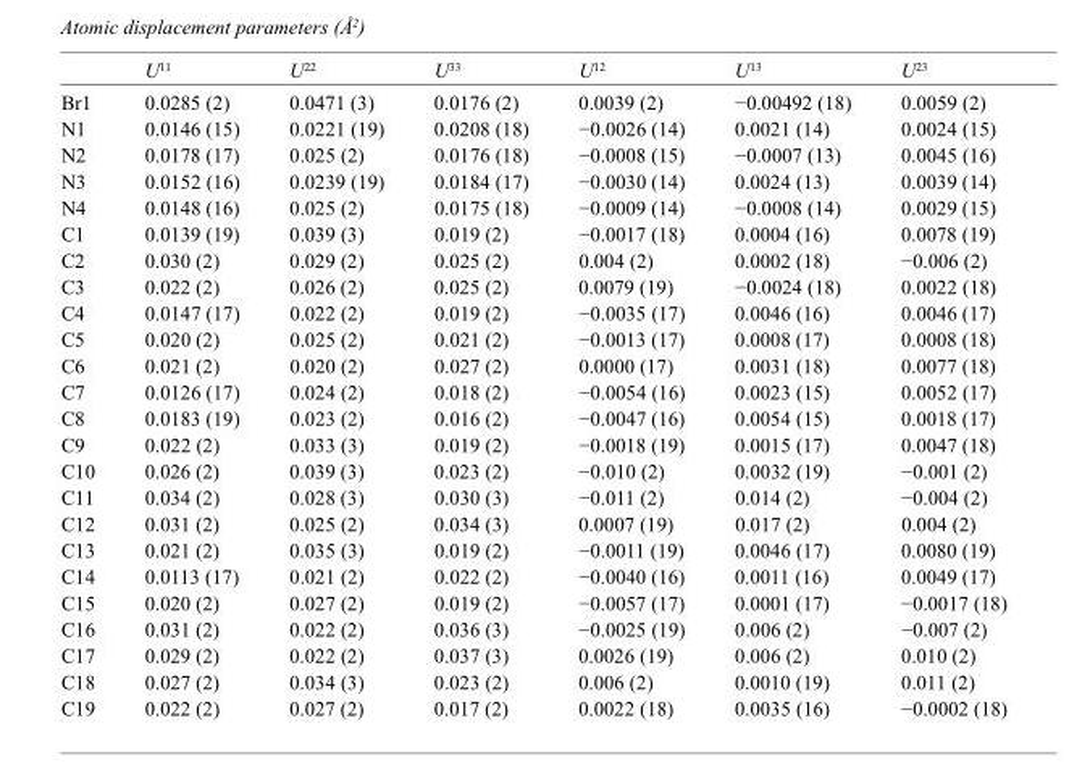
<table><thead><tr><td></td><td>U<sup>11</sup></td><td>U<sup>22</sup></td><td>U<sup>33</sup></td><td>U<sup>12</sup></td><td>U<sup>13</sup></td><td>U<sup>23</sup></td></tr></thead><tbody><tr><td>Br1</td><td>0.0285 (2)</td><td>0.0471 (3)</td><td>0.0176 (2)</td><td>0.0039 (2)</td><td>−0.00492 (18)</td><td>0.0059 (2)</td></tr><tr><td>N1</td><td>0.0146 (15)</td><td>0.0221 (19)</td><td>0.0208 (18)</td><td>−0.0026 (14)</td><td>0.0021 (14)</td><td>0.0024 (15)</td></tr><tr><td>N2</td><td>0.0178 (17)</td><td>0.025 (2)</td><td>0.0176 (18)</td><td>−0.0008 (15)</td><td>−0.0007 (13)</td><td>0.0045 (16)</td></tr><tr><td>N3</td><td>0.0152 (16)</td><td>0.0239 (19)</td><td>0.0184 (17)</td><td>−0.0030 (14)</td><td>0.0024 (13)</td><td>0.0039 (14)</td></tr><tr><td>N4</td><td>0.0148 (16)</td><td>0.025 (2)</td><td>0.0175 (18)</td><td>−0.0009 (14)</td><td>−0.0008 (14)</td><td>0.0029 (15)</td></tr><tr><td>C1</td><td>0.0139 (19)</td><td>0.039 (3)</td><td>0.019 (2)</td><td>−0.0017 (18)</td><td>0.0004 (16)</td><td>0.0078 (19)</td></tr><tr><td>C2</td><td>0.030 (2)</td><td>0.029 (2)</td><td>0.025 (2)</td><td>0.004 (2)</td><td>0.0002 (18)</td><td>−0.006 (2)</td></tr><tr><td>C3</td><td>0.022 (2)</td><td>0.026 (2)</td><td>0.025 (2)</td><td>0.0079 (19)</td><td>−0.0024 (18)</td><td>0.0022 (18)</td></tr><tr><td>C4</td><td>0.0147 (17)</td><td>0.022 (2)</td><td>0.019 (2)</td><td>−0.0035 (17)</td><td>0.0046 (16)</td><td>0.0046 (17)</td></tr><tr><td>C5</td><td>0.020 (2)</td><td>0.025 (2)</td><td>0.021 (2)</td><td>−0.0013 (17)</td><td>0.0008 (17)</td><td>0.0008 (18)</td></tr><tr><td>C6</td><td>0.021 (2)</td><td>0.020 (2)</td><td>0.027 (2)</td><td>0.0000 (17)</td><td>0.0031 (18)</td><td>0.0077 (18)</td></tr><tr><td>C7</td><td>0.0126 (17)</td><td>0.024 (2)</td><td>0.018 (2)</td><td>−0.0054 (16)</td><td>0.0023 (15)</td><td>0.0052 (17)</td></tr><tr><td>C8</td><td>0.0183 (19)</td><td>0.023 (2)</td><td>0.016 (2)</td><td>−0.0047 (16)</td><td>0.0054 (15)</td><td>0.0018 (17)</td></tr><tr><td>C9</td><td>0.022 (2)</td><td>0.033 (3)</td><td>0.019 (2)</td><td>−0.0018 (19)</td><td>0.0015 (17)</td><td>0.0047 (18)</td></tr><tr><td>C10</td><td>0.026 (2)</td><td>0.039 (3)</td><td>0.023 (2)</td><td>−0.010 (2)</td><td>0.0032 (19)</td><td>−0.001 (2)</td></tr><tr><td>C11</td><td>0.034 (2)</td><td>0.028 (3)</td><td>0.030 (3)</td><td>−0.011 (2)</td><td>0.014 (2)</td><td>−0.004 (2)</td></tr><tr><td>C12</td><td>0.031 (2)</td><td>0.025 (2)</td><td>0.034 (3)</td><td>0.0007 (19)</td><td>0.017 (2)</td><td>0.004 (2)</td></tr><tr><td>C13</td><td>0.021 (2)</td><td>0.035 (3)</td><td>0.019 (2)</td><td>−0.0011 (19)</td><td>0.0046 (17)</td><td>0.0080 (19)</td></tr><tr><td>C14</td><td>0.0113 (17)</td><td>0.021 (2)</td><td>0.022 (2)</td><td>−0.0040 (16)</td><td>0.0011 (16)</td><td>0.0049 (17)</td></tr><tr><td>C15</td><td>0.020 (2)</td><td>0.027 (2)</td><td>0.019 (2)</td><td>−0.0057 (17)</td><td>0.0001 (17)</td><td>−0.0017 (18)</td></tr><tr><td>C16</td><td>0.031 (2)</td><td>0.022 (2)</td><td>0.036 (3)</td><td>−0.0025 (19)</td><td>0.006 (2)</td><td>−0.007 (2)</td></tr><tr><td>C17</td><td>0.029 (2)</td><td>0.022 (2)</td><td>0.037 (3)</td><td>0.0026 (19)</td><td>0.006 (2)</td><td>0.010 (2)</td></tr><tr><td>C18</td><td>0.027 (2)</td><td>0.034 (3)</td><td>0.023 (2)</td><td>0.006 (2)</td><td>0.0010 (19)</td><td>0.011 (2)</td></tr><tr><td>C19</td><td>0.022 (2)</td><td>0.027 (2)</td><td>0.017 (2)</td><td>0.0022 (18)</td><td>0.0035 (16)</td><td>−0.0002 (18)</td></tr></tbody></table>